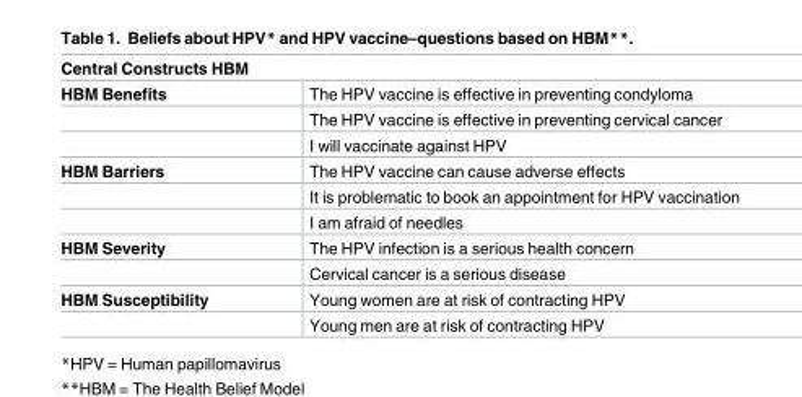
<table><thead><tr><td colspan="2">Central Constructs HBM</td></tr><tr><td>HBM Benefits</td><td>The HPV vaccine is effective in preventing condyloma</td></tr></thead><tbody><tr><td></td><td>The HPV vaccine is effective in preventing cervical cancer</td></tr><tr><td></td><td>I will vaccinate against HPV</td></tr><tr><td rowspan="3">HBM Barriers</td><td>The HPV vaccine can cause adverse effects</td></tr><tr><td>It is problematic to book an appointment for HPV vaccination</td></tr><tr><td>I am afraid of needles</td></tr><tr><td rowspan="2">HBM Severity</td><td>The HPV infection is a serious health concern</td></tr><tr><td>Cervical cancer is a serious disease</td></tr><tr><td rowspan="2">HBM Susceptibility</td><td>Young women are at risk of contracting HPV</td></tr><tr><td>Young men are at risk of contracting HPV</td></tr></tbody></table>